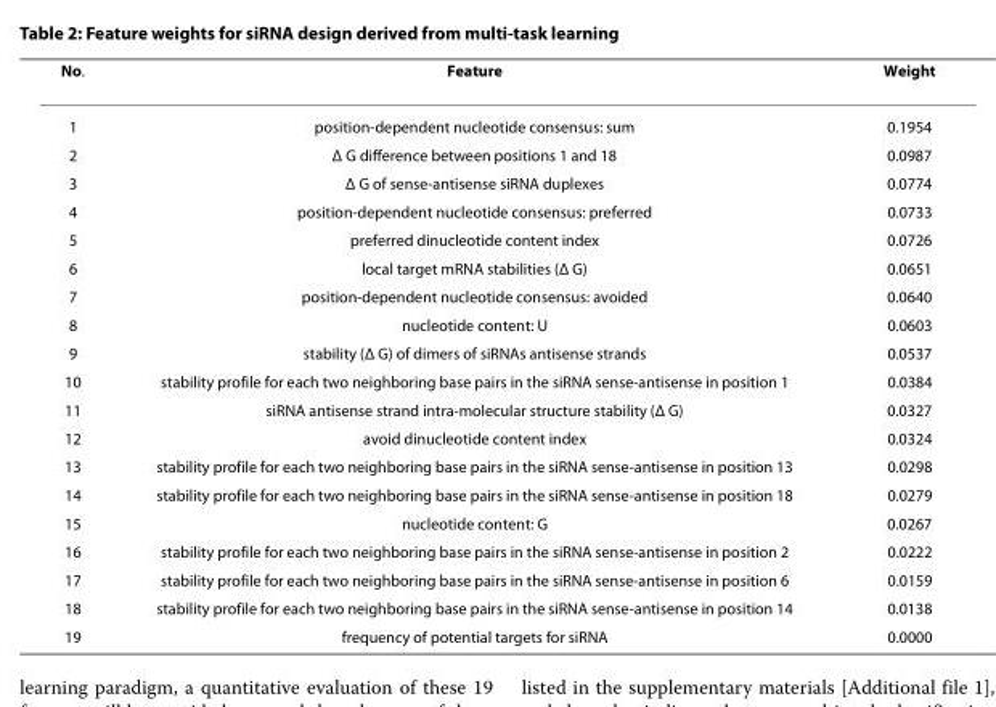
<table><thead><tr><td>No.</td><td>Feature</td><td>Weight</td></tr></thead><tbody><tr><td>1</td><td>position-dependent nucleotide consensus: sum</td><td>0.1954</td></tr><tr><td>2</td><td>Δ G difference between positions 1 and 18</td><td>0.0987</td></tr><tr><td>3</td><td>Δ G of sense-antisense siRNA duplexes</td><td>0.0774</td></tr><tr><td>4</td><td>position-dependent nucleotide consensus: preferred</td><td>0.0733</td></tr><tr><td>5</td><td>preferred dinucleotide content index</td><td>0.0726</td></tr><tr><td>6</td><td>local target mRNA stabilities (Δ G)</td><td>0.0651</td></tr><tr><td>7</td><td>position-dependent nucleotide consensus: avoided</td><td>0.0640</td></tr><tr><td>8</td><td>nucleotide content: U</td><td>0.0603</td></tr><tr><td>9</td><td>stability (Δ G) of dimers of siRNAs antisense strands</td><td>0.0537</td></tr><tr><td>10</td><td>stability profile for each two neighboring base pairs in the siRNA sense-antisense in position 1</td><td>0.0384</td></tr><tr><td>11</td><td>siRNA antisense strand intra-molecular structure stability (Δ G)</td><td>0.0327</td></tr><tr><td>12</td><td>avoid dinucleotide content index</td><td>0.0324</td></tr><tr><td>13</td><td>stability profile for each two neighboring base pairs in the siRNA sense-antisense in position 13</td><td>0.0298</td></tr><tr><td>14</td><td>stability profile for each two neighboring base pairs in the siRNA sense-antisense in position 18</td><td>0.0279</td></tr><tr><td>15</td><td>nucleotide content: G</td><td>0.0267</td></tr><tr><td>16</td><td>stability profile for each two neighboring base pairs in the siRNA sense-antisense in position 2</td><td>0.0222</td></tr><tr><td>17</td><td>stability profile for each two neighboring base pairs in the siRNA sense-antisense in position 6</td><td>0.0159</td></tr><tr><td>18</td><td>stability profile for each two neighboring base pairs in the siRNA sense-antisense in position 14</td><td>0.0138</td></tr><tr><td>19</td><td>frequency of potential targets for siRNA</td><td>0.0000</td></tr></tbody></table>